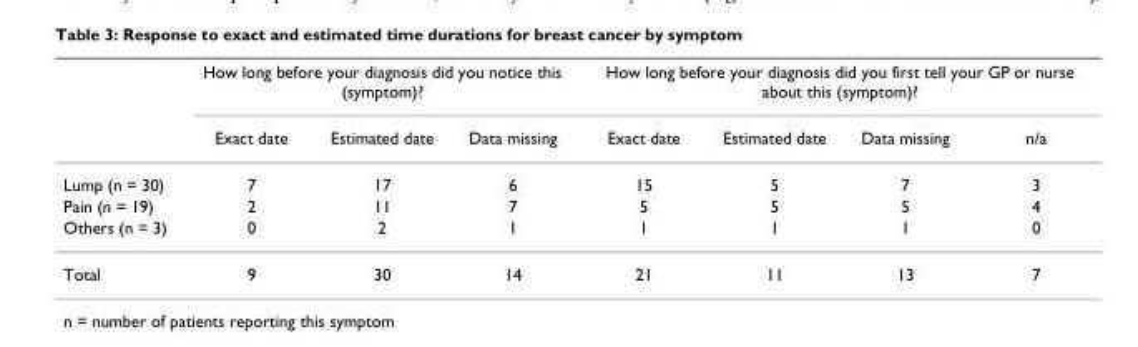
<table><thead><tr><td rowspan="2"></td><td colspan="3">How long before your diagnosis did you notice this (symptom)?</td><td colspan="4">How long before your diagnosis did you first tell your GP or nurse about this (symptom)?</td></tr><tr><td>Exact date</td><td>Estimated date</td><td>Data missing</td><td>Exact date</td><td>Estimated date</td><td>Data missing</td><td>n/a</td></tr></thead><tbody><tr><td>Lump (n = 30)</td><td>7</td><td>17</td><td>6</td><td>15</td><td>5</td><td>7</td><td>3</td></tr><tr><td>Pain (n = 19)</td><td>2</td><td>11</td><td>7</td><td>5</td><td>5</td><td>5</td><td>4</td></tr><tr><td>Others (n = 3)</td><td>0</td><td>2</td><td>1</td><td>1</td><td>1</td><td>1</td><td>0</td></tr><tr><td>Total</td><td>9</td><td>30</td><td>14</td><td>21</td><td>11</td><td>13</td><td>7</td></tr></tbody></table>